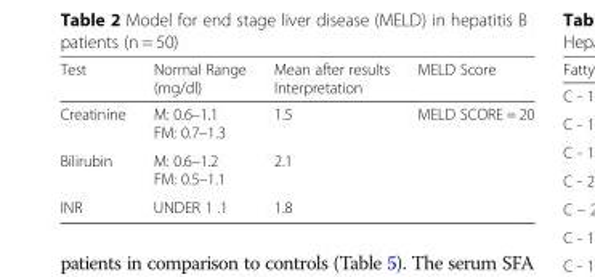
<table><thead><tr><td>Test</td><td>Normal Range (mg/dl)</td><td>Mean after results Interpretation</td><td>MELD Score</td></tr></thead><tbody><tr><td>Creatinine</td><td>M: 0.6–1.1 FM: 0.7–1.3</td><td>1.5</td><td rowspan="3">MELD SCORE = 20</td></tr><tr><td>Bilirubin</td><td>M: 0.6–1.2 FM: 0.5–1.1</td><td>2.1</td></tr><tr><td>INR</td><td>UNDER 1 .1</td><td>1.8</td></tr></tbody></table>